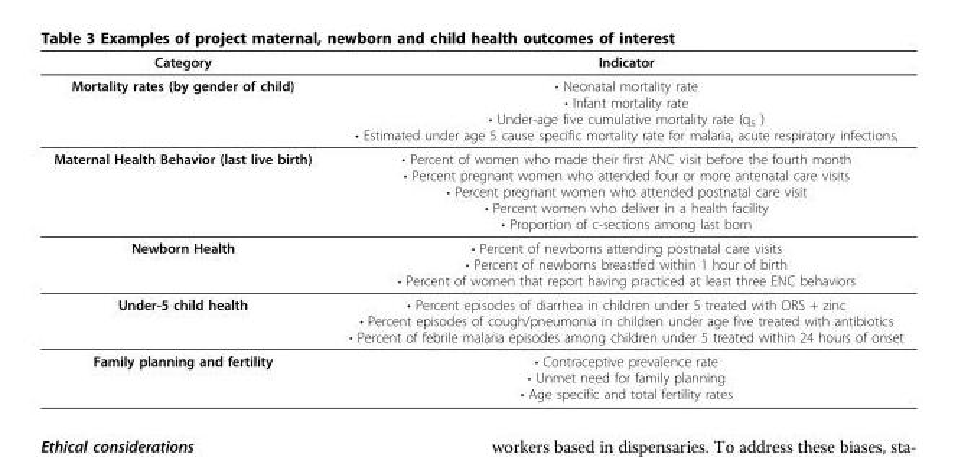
<table><thead><tr><td>Category</td><td>Indicator</td></tr></thead><tbody><tr><td>Mortality rates (by gender of child)</td><td>• Neonatal mortality rate • Infant mortality rate • Under-age five cumulative mortality rate (q<sub>5</sub> ) • Estimated under age 5 cause specific mortality rate for malaria, acute respiratory infections,</td></tr><tr><td>Maternal Health Behavior (last live birth)</td><td>• Percent of women who made their first ANC visit before the fourth month • Percent pregnant women who attended four or more antenatal care visits • Percent pregnant women who attended postnatal care visit • Percent women who deliver in a health facility • Proportion of c-sections among last born</td></tr><tr><td>Newborn Health</td><td>• Percent of newborns attending postnatal care visits • Percent of newborns breastfed within 1 hour of birth • Percent of women that report having practiced at least three ENC behaviors</td></tr><tr><td>Under-5 child health</td><td>• Percent episodes of diarrhea in children under 5 treated with ORS + zinc • Percent episodes of cough/pneumonia in children under age five treated with antibiotics • Percent of febrile malaria episodes among children under 5 treated within 24 hours of onset</td></tr><tr><td>Family planning and fertility</td><td>• Contraceptive prevalence rate • Unmet need for family planning • Age specific and total fertility rates</td></tr></tbody></table>